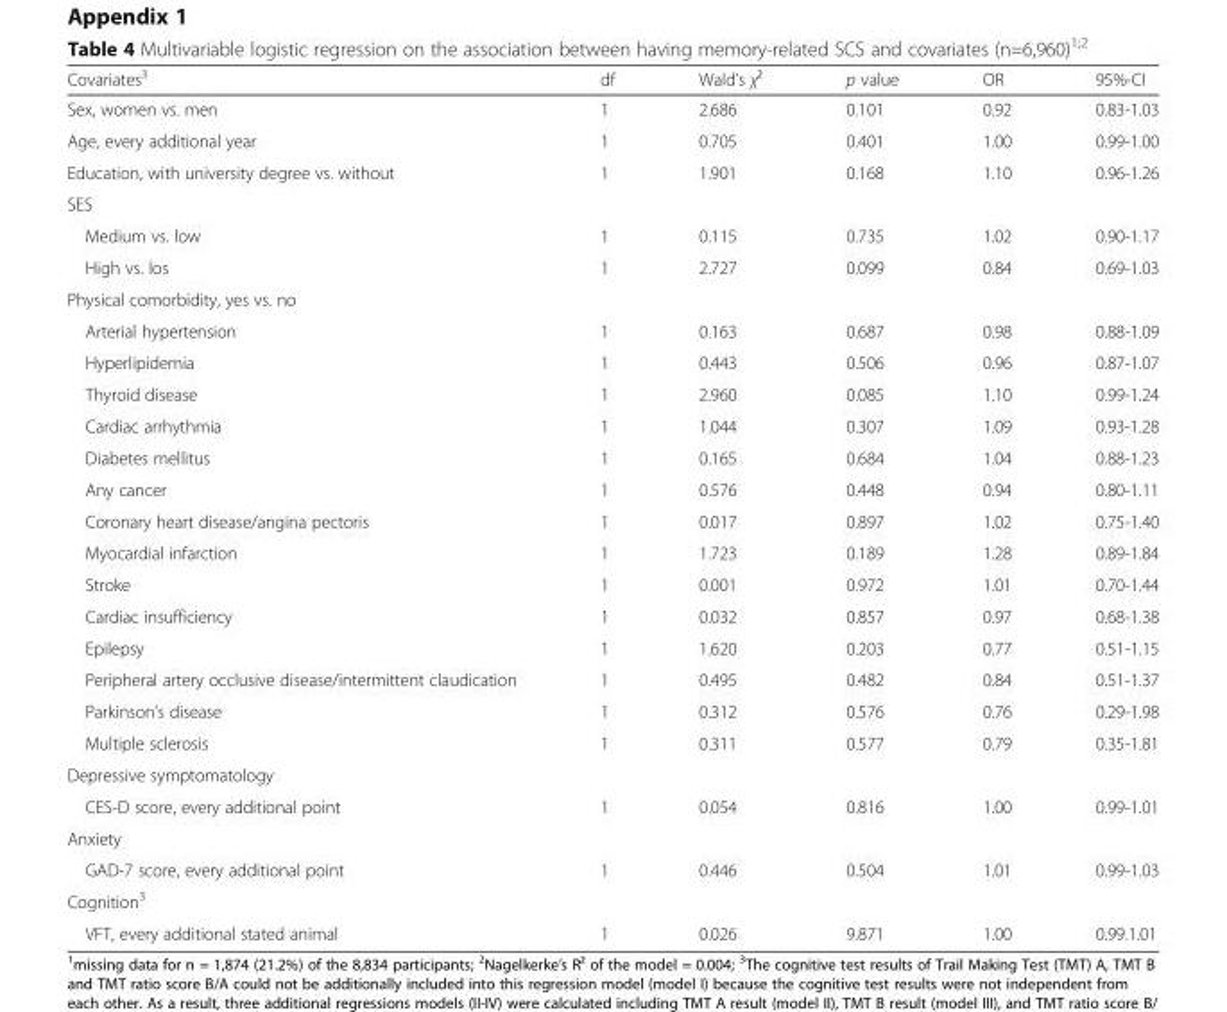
<table><thead><tr><td>Covariates<sup>3</sup></td><td>df</td><td>Wald’s χ²</td><td>p value</td><td>OR</td><td>95%-CI</td></tr></thead><tbody><tr><td>Sex, women vs. men</td><td>1</td><td>2.686</td><td>0.101</td><td>0.92</td><td>0.83-1.03</td></tr><tr><td>Age, every additional year</td><td>1</td><td>0.705</td><td>0.401</td><td>1.00</td><td>0.99-1.00</td></tr><tr><td>Education, with university degree vs. without</td><td>1</td><td>1.901</td><td>0.168</td><td>1.10</td><td>0.96-1.26</td></tr><tr><td colspan="6">SES</td></tr><tr><td>Medium vs. low</td><td>1</td><td>0.115</td><td>0.735</td><td>1.02</td><td>0.90-1.17</td></tr><tr><td>High vs. los</td><td>1</td><td>2.727</td><td>0.099</td><td>0.84</td><td>0.69-1.03</td></tr><tr><td colspan="6">Physical comorbidity, yes vs. no</td></tr><tr><td>Arterial hypertension</td><td>1</td><td>0.163</td><td>0.687</td><td>0.98</td><td>0.88-1.09</td></tr><tr><td>Hyperlipidemia</td><td>1</td><td>0.443</td><td>0.506</td><td>0.96</td><td>0.87-1.07</td></tr><tr><td>Thyroid disease</td><td>1</td><td>2.960</td><td>0.085</td><td>1.10</td><td>0.99-1.24</td></tr><tr><td>Cardiac arrhythmia</td><td>1</td><td>1.044</td><td>0.307</td><td>1.09</td><td>0.93-1.28</td></tr><tr><td>Diabetes mellitus</td><td>1</td><td>0.165</td><td>0.684</td><td>1.04</td><td>0.88-1.23</td></tr><tr><td>Any cancer</td><td>1</td><td>0.576</td><td>0.448</td><td>0.94</td><td>0.80-1.11</td></tr><tr><td>Coronary heart disease/angina pectoris</td><td>1</td><td>0.017</td><td>0.897</td><td>1.02</td><td>0.75-1.40</td></tr><tr><td>Myocardial infarction</td><td>1</td><td>1.723</td><td>0.189</td><td>1.28</td><td>0.89-1.84</td></tr><tr><td>Stroke</td><td>1</td><td>0.001</td><td>0.972</td><td>1.01</td><td>0.70-1.44</td></tr><tr><td>Cardiac insufficiency</td><td>1</td><td>0.032</td><td>0.857</td><td>0.97</td><td>0.68-1.38</td></tr><tr><td>Epilepsy</td><td>1</td><td>1.620</td><td>0.203</td><td>0.77</td><td>0.51-1.15</td></tr><tr><td>Peripheral artery occlusive disease/intermittent claudication</td><td>1</td><td>0.495</td><td>0.482</td><td>0.84</td><td>0.51-1.37</td></tr><tr><td>Parkinson’s disease</td><td>1</td><td>0.312</td><td>0.576</td><td>0.76</td><td>0.29-1.98</td></tr><tr><td>Multiple sclerosis</td><td>1</td><td>0.311</td><td>0.577</td><td>0.79</td><td>0.35-1.81</td></tr><tr><td colspan="6">Depressive symptomatology</td></tr><tr><td>CES-D score, every additional point</td><td>1</td><td>0.054</td><td>0.816</td><td>1.00</td><td>0.99-1.01</td></tr><tr><td colspan="6">Anxiety</td></tr><tr><td>GAD-7 score, every additional point</td><td>1</td><td>0.446</td><td>0.504</td><td>1.01</td><td>0.99-1.03</td></tr><tr><td colspan="6">Cognition<sup>3</sup></td></tr><tr><td>VFT, every additional stated animal</td><td>1</td><td>0.026</td><td>9.871</td><td>1.00</td><td>0.99.1.01</td></tr></tbody></table>